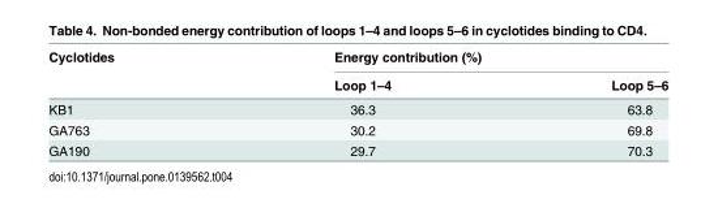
<table><thead><tr><td rowspan="2">Cyclotides</td><td colspan="2">Energy contribution (%)</td></tr><tr><td>Loop 1–4</td><td>Loop 5–6</td></tr></thead><tbody><tr><td>KB1</td><td>36.3</td><td>63.8</td></tr><tr><td>GA763</td><td>30.2</td><td>69.8</td></tr><tr><td>GA190</td><td>29.7</td><td>70.3</td></tr></tbody></table>